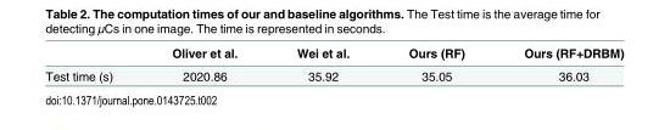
<table><thead><tr><td></td><td>Oliver et al.</td><td>Wei et al.</td><td>Ours (RF)</td><td>Ours (RF+DRBM)</td></tr></thead><tbody><tr><td>Test time (s)</td><td>2020.86</td><td>35.92</td><td>35.05</td><td>36.03</td></tr></tbody></table>